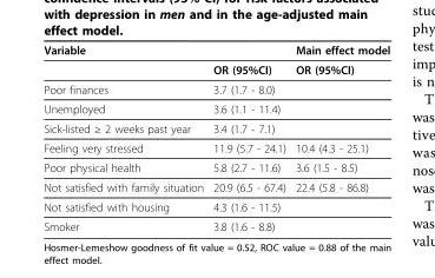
<table><thead><tr><td>Variable</td><td></td><td>Main effect model</td></tr></thead><tbody><tr><td></td><td>OR (95%CI)</td><td>OR (95%CI)</td></tr><tr><td>Poor finances</td><td>3.7 (1.7 - 8.0)</td><td></td></tr><tr><td>Unemployed</td><td>3.6 (1.1 - 11.4)</td><td></td></tr><tr><td>Sick-listed ≥ 2 weeks past year</td><td>3.4 (1.7 - 7.1)</td><td></td></tr><tr><td>Feeling very stressed</td><td>11.9 (5.7 - 24.1)</td><td>10.4 (4.3 - 25.1)</td></tr><tr><td>Poor physical health</td><td>5.8 (2.7 - 11.6)</td><td>3.6 (1.5 - 8.5)</td></tr><tr><td>Not satisfied with family situation</td><td>20.9 (6.5 - 67.4)</td><td>22.4 (5.8 - 86.8)</td></tr><tr><td>Not satisfied with housing</td><td>4.3 (1.6 - 11.5)</td><td></td></tr><tr><td>Smoker</td><td>3.8 (1.6 - 8.8)</td><td></td></tr></tbody></table>